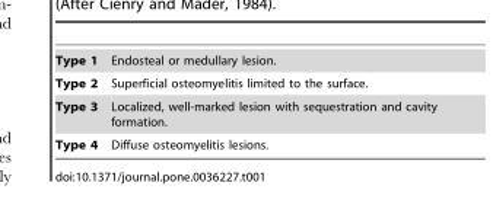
<table><tbody><tr><td>Type 1</td><td>Endosteal or medullary lesion.</td></tr><tr><td>Type 2</td><td>Superficial osteomyelitis limited to the surface.</td></tr><tr><td>Type 3</td><td>Localized, well-marked lesion with sequestration and cavity formation.</td></tr><tr><td>Type 4</td><td>Diffuse osteomyelitis lesions.</td></tr></tbody></table>